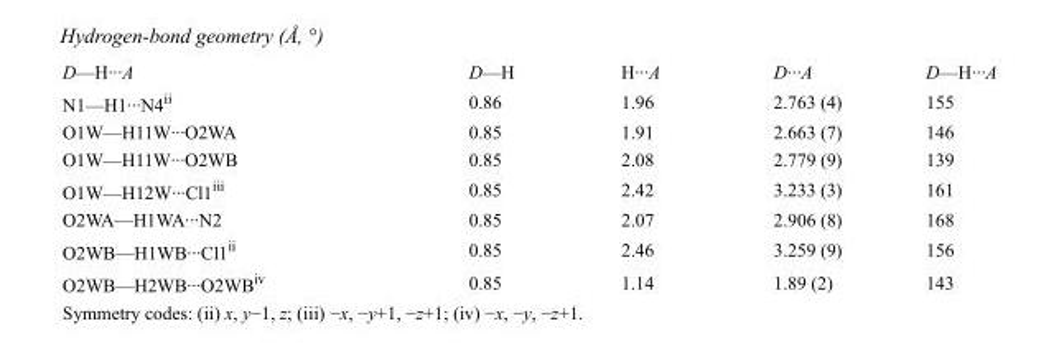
<table><tbody><tr><td>D—H···A</td><td>D—H</td><td>H···A</td><td>D···A</td><td>D—H···A</td></tr><tr><td>N1—H1···N4<sup>ii</sup></td><td>0.86</td><td>1.96</td><td>2.763 (4)</td><td>155</td></tr><tr><td>O1W—H11W···O2WA</td><td>0.85</td><td>1.91</td><td>2.663 (7)</td><td>146</td></tr><tr><td>O1W—H11W···O2WB</td><td>0.85</td><td>2.08</td><td>2.779 (9)</td><td>139</td></tr><tr><td>O1W—H12W···Cl1<sup>iii</sup></td><td>0.85</td><td>2.42</td><td>3.233 (3)</td><td>161</td></tr><tr><td>O2WA—H1WA···N2</td><td>0.85</td><td>2.07</td><td>2.906 (8)</td><td>168</td></tr><tr><td>O2WB—H1WB···Cl1<sup>ii</sup></td><td>0.85</td><td>2.46</td><td>3.259 (9)</td><td>156</td></tr><tr><td>O2WB—H2WB···O2WB<sup>iv</sup></td><td>0.85</td><td>1.14</td><td>1.89 (2)</td><td>143</td></tr></tbody></table>